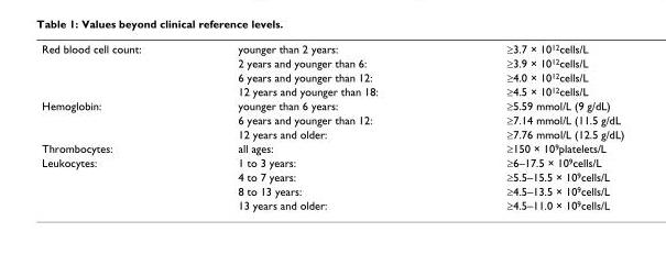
<table><tbody><tr><td rowspan="4">Red blood cell count:</td><td>younger than 2 years:</td><td>≥3.7 × 10<sup>12</sup>cells/L</td></tr><tr><td>2 years and younger than 6:</td><td>≥3.9 × 10<sup>12</sup>cells/L</td></tr><tr><td>6 years and younger than 12:</td><td>≥4.0 × 10<sup>12</sup>cells/L</td></tr><tr><td>12 years and younger than 18:</td><td>≥4.5 × 10<sup>12</sup>cells/L</td></tr><tr><td rowspan="3">Hemoglobin:</td><td>younger than 6 years:</td><td>≥5.59 mmol/L (9 g/dL)</td></tr><tr><td>6 years and younger than 12:</td><td>≥7.14 mmol/L (11.5 g/dL</td></tr><tr><td>12 years and older:</td><td>≥7.76 mmol/L (12.5 g/dL)</td></tr><tr><td>Thrombocytes:</td><td>all ages:</td><td>≥150 × 10<sup>9</sup>platelets/L</td></tr><tr><td rowspan="4">Leukocytes:</td><td>1 to 3 years:</td><td>≥6–17.5 × 10<sup>9</sup>cells/L</td></tr><tr><td>4 to 7 years:</td><td>≥5.5–15.5 × 10<sup>9</sup>cells/L</td></tr><tr><td>8 to 13 years:</td><td>≥4.5–13.5 × 10<sup>9</sup>cells/L</td></tr><tr><td>13 years and older:</td><td>≥4.5–11.0 × 10<sup>9</sup>cells/L</td></tr></tbody></table>